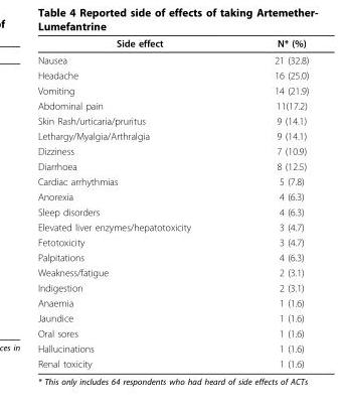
<table><thead><tr><td>Side effect</td><td>N* (%)</td></tr></thead><tbody><tr><td>Nausea</td><td>21 (32.8)</td></tr><tr><td>Headache</td><td>16 (25.0)</td></tr><tr><td>Vomiting</td><td>14 (21.9)</td></tr><tr><td>Abdominal pain</td><td>11(17.2)</td></tr><tr><td>Skin Rash/urticaria/pruritus</td><td>9 (14.1)</td></tr><tr><td>Lethargy/Myalgia/Arthralgia</td><td>9 (14.1)</td></tr><tr><td>Dizziness</td><td>7 (10.9)</td></tr><tr><td>Diarrhoea</td><td>8 (12.5)</td></tr><tr><td>Cardiac arrhythmias</td><td>5 (7.8)</td></tr><tr><td>Anorexia</td><td>4 (6.3)</td></tr><tr><td>Sleep disorders</td><td>4 (6.3)</td></tr><tr><td>Elevated liver enzymes/hepatotoxicity</td><td>3 (4.7)</td></tr><tr><td>Fetotoxicity</td><td>3 (4.7)</td></tr><tr><td>Palpitations</td><td>4 (6.3)</td></tr><tr><td>Weakness/fatigue</td><td>2 (3.1)</td></tr><tr><td>Indigestion</td><td>2 (3.1)</td></tr><tr><td>Anaemia</td><td>1 (1.6)</td></tr><tr><td>Jaundice</td><td>1 (1.6)</td></tr><tr><td>Oral sores</td><td>1 (1.6)</td></tr><tr><td>Hallucinations</td><td>1 (1.6)</td></tr><tr><td>Renal toxicity</td><td>1 (1.6)</td></tr></tbody></table>